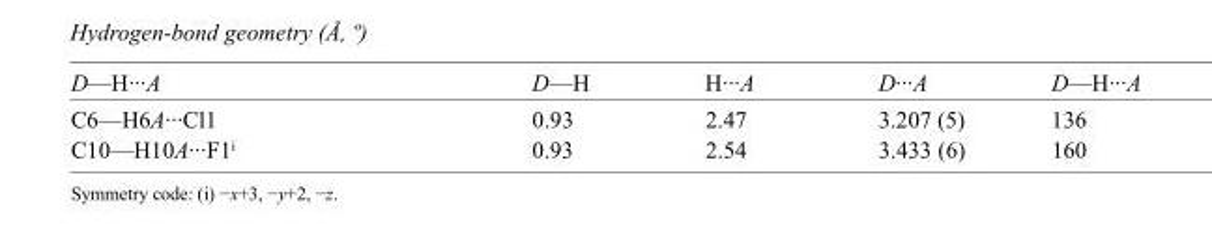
<table><tbody><tr><td>D—H···A</td><td>D—H</td><td>H···A</td><td>D···A</td><td>D—H···A</td></tr><tr><td>C6—H6A···Cl1</td><td>0.93</td><td>2.47</td><td>3.207 (5)</td><td>136</td></tr><tr><td>C10—H10A···F1<sup>i</sup></td><td>0.93</td><td>2.54</td><td>3.433 (6)</td><td>160</td></tr></tbody></table>